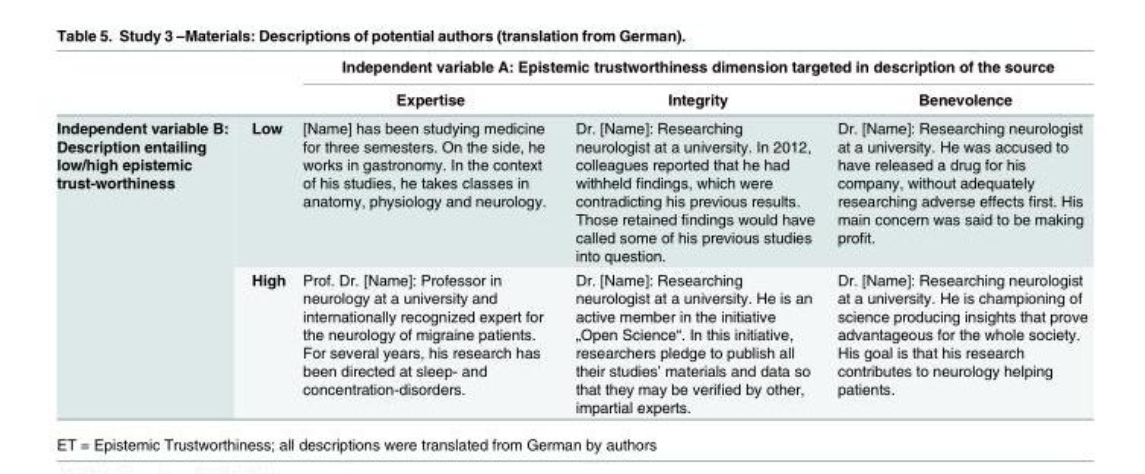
<table><thead><tr><td rowspan="2"></td><td rowspan="2"></td><td colspan="3">Independent variable A: Epistemic trustworthiness dimension targeted in description of the source</td></tr><tr><td>Expertise</td><td>Integrity</td><td>Benevolence</td></tr></thead><tbody><tr><td rowspan="2">Independent variable B: Description entailing low/high epistemic trust-worthiness</td><td>Low</td><td>[Name] has been studying medicine for three semesters. On the side, he works in gastronomy. In the context of his studies, he takes classes in anatomy, physiology and neurology.</td><td>Dr. [Name]: Researching neurologist at a university. In 2012, colleagues reported that he had withheld findings, which were contradicting his previous results. Those retained findings would have called some of his previous studies into question.</td><td>Dr. [Name]: Researching neurologist at a university. He was accused to have released a drug for his company, without adequately researching adverse effects first. His main concern was said to be making profit.</td></tr><tr><td>High</td><td>Prof. Dr. [Name]: Professor in neurology at a university and internationally recognized expert for the neurology of migraine patients. For several years, his research has been directed at sleep- and concentration-disorders.</td><td>Dr. [Name]: Researching neurologist at a university. He is an active member in the initiative „Open Science“. In this initiative, researchers pledge to publish all their studies’ materials and data so that they may be verified by other, impartial experts.</td><td>Dr. [Name]: Researching neurologist at a university. He is championing of science producing insights that prove advantageous for the whole society. His goal is that his research contributes to neurology helping patients.</td></tr></tbody></table>